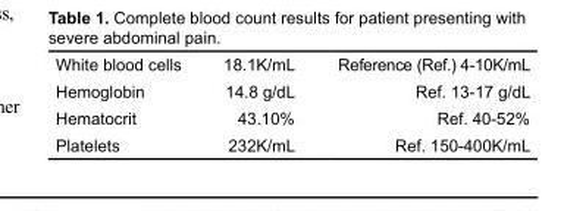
<table><tbody><tr><td>White blood cells</td><td>18.1K/mL</td><td>Reference (Ref.) 4-10K/mL</td></tr><tr><td>Hemoglobin</td><td>14.8 g/dL</td><td>Ref. 13-17 g/dL</td></tr><tr><td>Hematocrit</td><td>43.10%</td><td>Ref. 40-52%</td></tr><tr><td>Platelets</td><td>232K/mL</td><td>Ref. 150-400K/mL</td></tr></tbody></table>